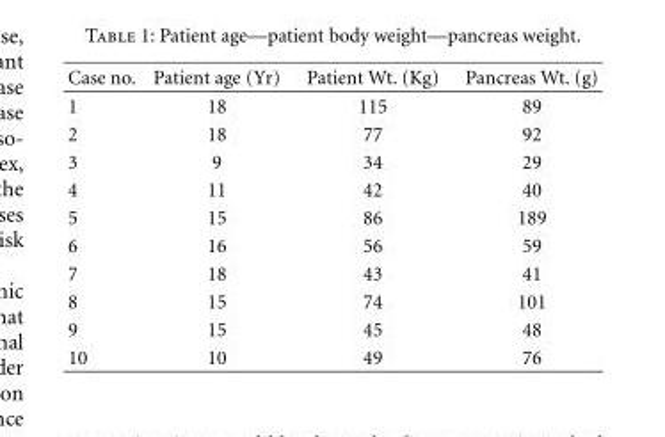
<table><thead><tr><td>Case no.</td><td>Patient age (Yr)</td><td>Patient Wt. (Kg)</td><td>Pancreas Wt. (g)</td></tr></thead><tbody><tr><td>1</td><td>18</td><td>115</td><td>89</td></tr><tr><td>2</td><td>18</td><td>77</td><td>92</td></tr><tr><td>3</td><td>9</td><td>34</td><td>29</td></tr><tr><td>4</td><td>11</td><td>42</td><td>40</td></tr><tr><td>5</td><td>15</td><td>86</td><td>189</td></tr><tr><td>6</td><td>16</td><td>56</td><td>59</td></tr><tr><td>7</td><td>18</td><td>43</td><td>41</td></tr><tr><td>8</td><td>15</td><td>74</td><td>101</td></tr><tr><td>9</td><td>15</td><td>45</td><td>48</td></tr><tr><td>10</td><td>10</td><td>49</td><td>76</td></tr></tbody></table>